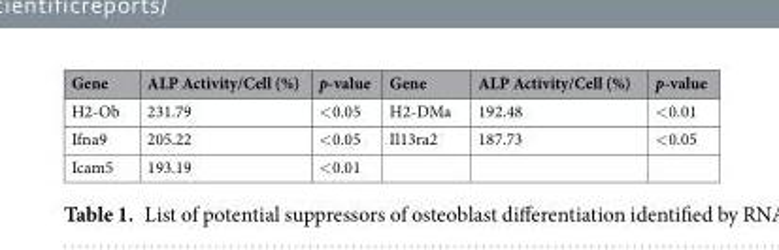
<table><thead><tr><td>Gene</td><td>ALP Activity/Cell (%)</td><td>p-value</td><td>Gene</td><td>ALP Activity/Cell (%)</td><td>p-value</td></tr></thead><tbody><tr><td>H2-Ob</td><td>231.79</td><td>&lt;0.05</td><td>H2-DMa</td><td>192.48</td><td>&lt;0.01</td></tr><tr><td>Ifna9</td><td>205.22</td><td>&lt;0.05</td><td>Il13ra2</td><td>187.73</td><td>&lt;0.05</td></tr><tr><td>Icam5</td><td>193.19</td><td>&lt;0.01</td><td></td><td></td><td></td></tr></tbody></table>